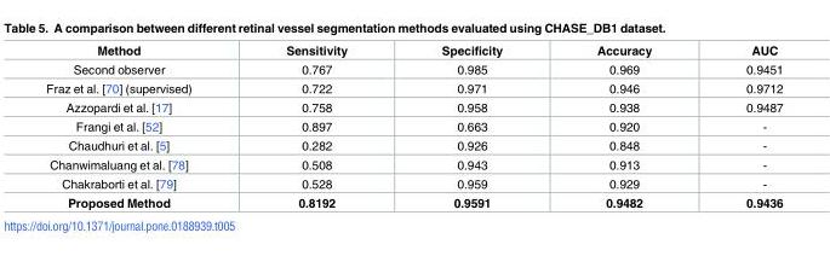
<table><thead><tr><td>Method</td><td>Sensitivity</td><td>Specificity</td><td>Accuracy</td><td>AUC</td></tr></thead><tbody><tr><td>Second observer</td><td>0.767</td><td>0.985</td><td>0.969</td><td>0.9451</td></tr><tr><td>Fraz et al. [70] (supervised)</td><td>0.722</td><td>0.971</td><td>0.946</td><td>0.9712</td></tr><tr><td>Azzopardi et al. [17]</td><td>0.758</td><td>0.958</td><td>0.938</td><td>0.9487</td></tr><tr><td>Frangi et al. [52]</td><td>0.897</td><td>0.663</td><td>0.920</td><td>-</td></tr><tr><td>Chaudhuri et al. [5]</td><td>0.282</td><td>0.926</td><td>0.848</td><td>-</td></tr><tr><td>Chanwimaluang et al. [78]</td><td>0.508</td><td>0.943</td><td>0.913</td><td>-</td></tr><tr><td>Chakraborti et al. [79]</td><td>0.528</td><td>0.959</td><td>0.929</td><td>-</td></tr><tr><td>Proposed Method</td><td>0.8192</td><td>0.9591</td><td>0.9482</td><td>0.9436</td></tr></tbody></table>